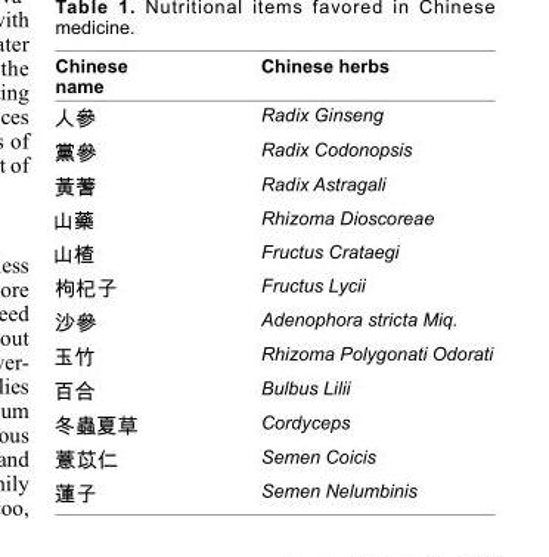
<table><thead><tr><td>Chinese name</td><td>Chinese herbs</td></tr></thead><tbody><tr><td></td><td>Radix Ginseng</td></tr><tr><td></td><td>Radix Codonopsis</td></tr><tr><td></td><td>Radix Astragali</td></tr><tr><td></td><td>Rhizoma Dioscoreae</td></tr><tr><td></td><td>Fructus Crataegi</td></tr><tr><td></td><td>Fructus Lycii</td></tr><tr><td></td><td>Adenophora stricta Miq.</td></tr><tr><td></td><td>Rhizoma Polygonati Odorati</td></tr><tr><td></td><td>Bulbus Lilii</td></tr><tr><td></td><td>Cordyceps</td></tr><tr><td></td><td>Semen Coicis</td></tr><tr><td></td><td>Semen Nelumbinis</td></tr></tbody></table>